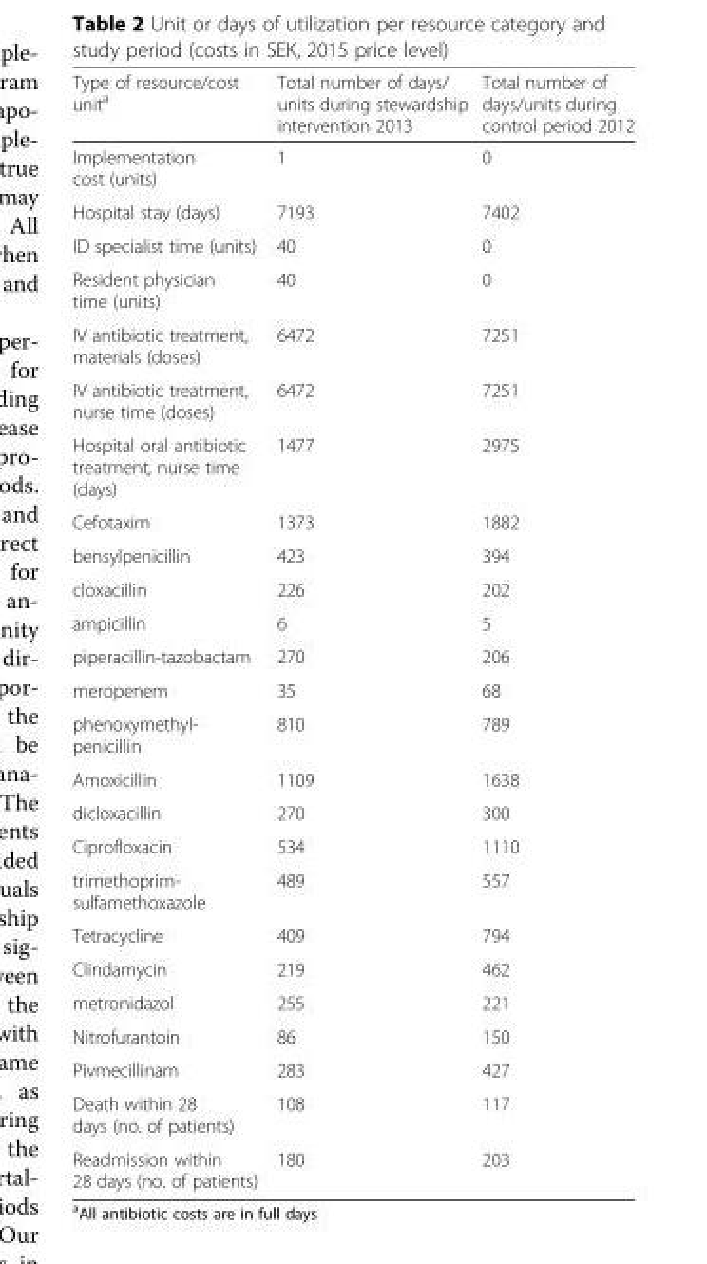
<table><thead><tr><td>Type of resource/cost unit<sup>a</sup></td><td>Total number of days/ units during stewardship intervention 2013</td><td>Total number of days/units during control period 2012</td></tr></thead><tbody><tr><td>Implementation cost (units)</td><td>1</td><td>0</td></tr><tr><td>Hospital stay (days)</td><td>7193</td><td>7402</td></tr><tr><td>ID specialist time (units)</td><td>40</td><td>0</td></tr><tr><td>Resident physician time (units)</td><td>40</td><td>0</td></tr><tr><td>IV antibiotic treatment, materials (doses)</td><td>6472</td><td>7251</td></tr><tr><td>IV antibiotic treatment, nurse time (doses)</td><td>6472</td><td>7251</td></tr><tr><td>Hospital oral antibiotic treatment, nurse time (days)</td><td>1477</td><td>2975</td></tr><tr><td>Cefotaxim</td><td>1373</td><td>1882</td></tr><tr><td>bensylpenicillin</td><td>423</td><td>394</td></tr><tr><td>cloxacillin</td><td>226</td><td>202</td></tr><tr><td>ampicillin</td><td>6</td><td>5</td></tr><tr><td>piperacillin-tazobactam</td><td>270</td><td>206</td></tr><tr><td>meropenem</td><td>35</td><td>68</td></tr><tr><td>phenoxymethyl- penicillin</td><td>810</td><td>789</td></tr><tr><td>Amoxicillin</td><td>1109</td><td>1638</td></tr><tr><td>dicloxacillin</td><td>270</td><td>300</td></tr><tr><td>Ciprofloxacin</td><td>534</td><td>1110</td></tr><tr><td>trimethoprim- sulfamethoxazole</td><td>489</td><td>557</td></tr><tr><td>Tetracycline</td><td>409</td><td>794</td></tr><tr><td>Clindamycin</td><td>219</td><td>462</td></tr><tr><td>metronidazol</td><td>255</td><td>221</td></tr><tr><td>Nitrofurantoin</td><td>86</td><td>150</td></tr><tr><td>Pivmecillinam</td><td>283</td><td>427</td></tr><tr><td>Death within 28 days (no. of patients)</td><td>108</td><td>117</td></tr><tr><td>Readmission within 28 days (no. of patients)</td><td>180</td><td>203</td></tr></tbody></table>